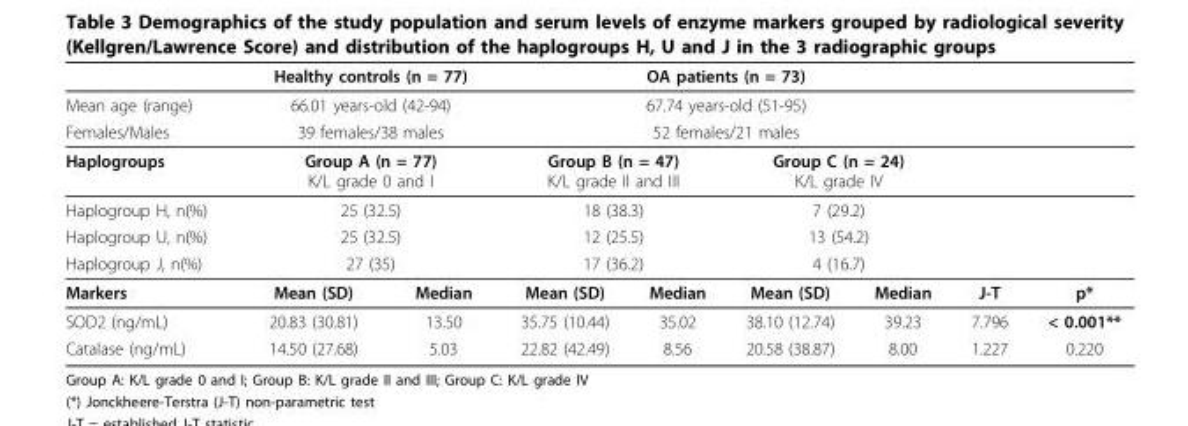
<table><thead><tr><td></td><td colspan="2">Healthy controls (n = 77)</td><td colspan="4">OA patients (n = 73)</td><td></td><td></td></tr></thead><tbody><tr><td>Mean age (range)</td><td colspan="2">66.01 years-old (42-94)</td><td colspan="4">67.74 years-old (51-95)</td><td></td><td></td></tr><tr><td>Females/Males</td><td colspan="2">39 females/38 males</td><td colspan="4">52 females/21 males</td><td></td><td></td></tr><tr><td>Haplogroups</td><td colspan="2">Group A (n = 77) K/L grade 0 and I</td><td colspan="2">Group B (n = 47) K/L grade II and III</td><td colspan="2">Group C (n = 24) K/L grade IV</td><td></td><td></td></tr><tr><td>Haplogroup H, n(%)</td><td colspan="2">25 (32.5)</td><td colspan="2">18 (38.3)</td><td colspan="2">7 (29.2)</td><td></td><td></td></tr><tr><td>Haplogroup U, n(%)</td><td colspan="2">25 (32.5)</td><td colspan="2">12 (25.5)</td><td colspan="2">13 (54.2)</td><td></td><td></td></tr><tr><td>Haplogroup J, n(%)</td><td colspan="2">27 (35)</td><td colspan="2">17 (36.2)</td><td colspan="2">4 (16.7)</td><td></td><td></td></tr><tr><td>Markers</td><td>Mean (SD)</td><td>Median</td><td>Mean (SD)</td><td>Median</td><td>Mean (SD)</td><td>Median</td><td>J-T</td><td>p*</td></tr><tr><td>SOD2 (ng/mL)</td><td>20.83 (30.81)</td><td>13.50</td><td>35.75 (10.44)</td><td>35.02</td><td>38.10 (12.74)</td><td>39.23</td><td>7.796</td><td>&lt; 0.001**</td></tr><tr><td>Catalase (ng/mL)</td><td>14.50 (27.68)</td><td>5.03</td><td>22.82 (42.49)</td><td>8.56</td><td>20.58 (38.87)</td><td>8.00</td><td>1.227</td><td>0.220</td></tr></tbody></table>